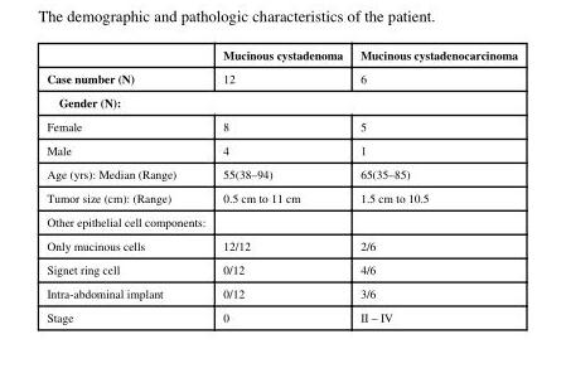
<table><thead><tr><td></td><td>Mucinous cystadenoma</td><td>Mucinous cystadenocarcinoma</td></tr></thead><tbody><tr><td>Case number (N)</td><td>12</td><td>6</td></tr><tr><td colspan="3">Gender (N):</td></tr><tr><td>Female</td><td>8</td><td>5</td></tr><tr><td>Male</td><td>4</td><td>1</td></tr><tr><td>Age (yrs): Median (Range)</td><td>55(38–94)</td><td>65(35–85)</td></tr><tr><td>Tumor size (cm): (Range)</td><td>0.5 cm to 11 cm</td><td>1.5 cm to 10.5</td></tr><tr><td colspan="3">Other epithelial cell components:</td></tr><tr><td>Only mucinous cells</td><td>12/12</td><td>2/6</td></tr><tr><td>Signet ring cell</td><td>0/12</td><td>4/6</td></tr><tr><td>Intra-abdominal implant</td><td>0/12</td><td>3/6</td></tr><tr><td>Stage</td><td>0</td><td>II – IV</td></tr></tbody></table>